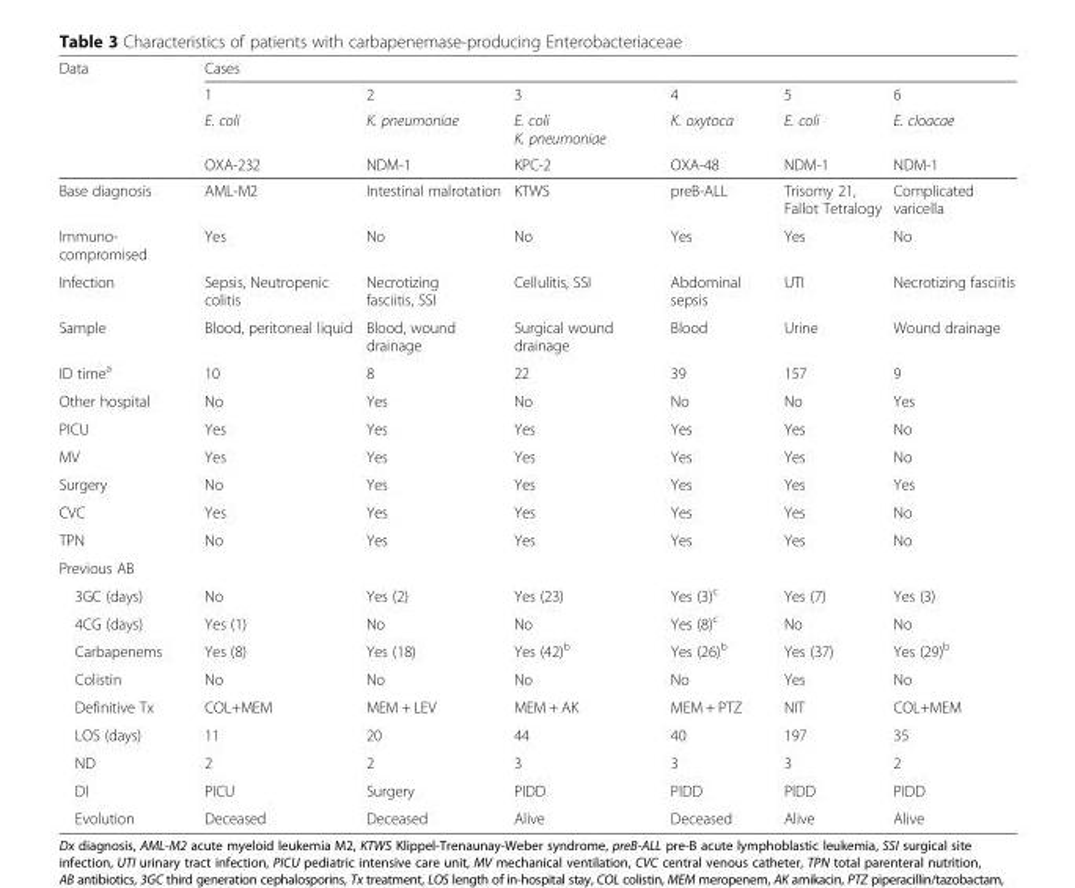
<table><thead><tr><td rowspan="4">Data</td><td colspan="6">Cases</td></tr><tr><td rowspan="3">1 E. coli OXA-232</td><td rowspan="3">2 K. pneumoniae NDM-1</td><td rowspan="3">3 E. coli K. pneumoniae KPC-2</td><td rowspan="3">4 K. oxytoca OXA-48</td><td rowspan="3">5 E. coli NDM-1</td><td rowspan="3">6 E. cloacae NDM-1</td></tr><tr></tr><tr></tr></thead><tbody><tr><td>Base diagnosis</td><td>AML-M2</td><td>Intestinal malrotation</td><td>KTWS</td><td>preB-ALL</td><td>Trisomy 21, Fallot Tetralogy</td><td>Complicated varicella</td></tr><tr><td>Immuno- compromised</td><td>Yes</td><td>No</td><td>No</td><td>Yes</td><td>Yes</td><td>No</td></tr><tr><td>Infection</td><td>Sepsis, Neutropenic colitis</td><td>Necrotizing fasciitis, SSI</td><td>Cellulitis, SSI</td><td>Abdominal sepsis</td><td>UTI</td><td>Necrotizing fasciitis</td></tr><tr><td>Sample</td><td>Blood, peritoneal liquid</td><td>Blood, wound drainage</td><td>Surgical wound drainage</td><td>Blood</td><td>Urine</td><td>Wound drainage</td></tr><tr><td>ID time<sup>a</sup></td><td>10</td><td>8</td><td>22</td><td>39</td><td>157</td><td>9</td></tr><tr><td>Other hospital</td><td>No</td><td>Yes</td><td>No</td><td>No</td><td>No</td><td>Yes</td></tr><tr><td>PICU</td><td>Yes</td><td>Yes</td><td>Yes</td><td>Yes</td><td>Yes</td><td>No</td></tr><tr><td>MV</td><td>Yes</td><td>Yes</td><td>Yes</td><td>Yes</td><td>Yes</td><td>No</td></tr><tr><td>Surgery</td><td>No</td><td>Yes</td><td>Yes</td><td>Yes</td><td>Yes</td><td>Yes</td></tr><tr><td>CVC</td><td>Yes</td><td>Yes</td><td>Yes</td><td>Yes</td><td>Yes</td><td>No</td></tr><tr><td>TPN</td><td>No</td><td>Yes</td><td>Yes</td><td>Yes</td><td>Yes</td><td>No</td></tr><tr><td colspan="7">Previous AB</td></tr><tr><td>3GC (days)</td><td>No</td><td>Yes (2)</td><td>Yes (23)</td><td>Yes (3)<sup>c</sup></td><td>Yes (7)</td><td>Yes (3)</td></tr><tr><td>4CG (days)</td><td>Yes (1)</td><td>No</td><td>No</td><td>Yes (8)<sup>c</sup></td><td>No</td><td>No</td></tr><tr><td>Carbapenems</td><td>Yes (8)</td><td>Yes (18)</td><td>Yes (42)<sup>b</sup></td><td>Yes (26)<sup>b</sup></td><td>Yes (37)</td><td>Yes (29)<sup>b</sup></td></tr><tr><td>Colistin</td><td>No</td><td>No</td><td>No</td><td>No</td><td>Yes</td><td>No</td></tr><tr><td>Definitive Tx</td><td>COL+MEM</td><td>MEM + LEV</td><td>MEM + AK</td><td>MEM + PTZ</td><td>NIT</td><td>COL+MEM</td></tr><tr><td>LOS (days)</td><td>11</td><td>20</td><td>44</td><td>40</td><td>197</td><td>35</td></tr><tr><td>ND</td><td>2</td><td>2</td><td>3</td><td>3</td><td>3</td><td>2</td></tr><tr><td>DI</td><td>PICU</td><td>Surgery</td><td>PIDD</td><td>PIDD</td><td>PIDD</td><td>PIDD</td></tr><tr><td>Evolution</td><td>Deceased</td><td>Deceased</td><td>Alive</td><td>Deceased</td><td>Alive</td><td>Alive</td></tr></tbody></table>